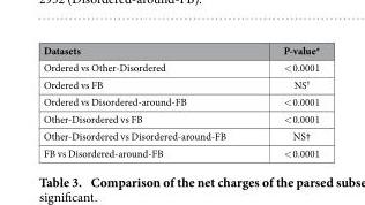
<table><thead><tr><td>Datasets</td><td>P-value*</td></tr></thead><tbody><tr><td>Ordered vs Other-Disordered</td><td>&lt; 0.0001</td></tr><tr><td>Ordered vs FB</td><td>NS†</td></tr><tr><td>Ordered vs Disordered-around-FB</td><td>&lt; 0.0001</td></tr><tr><td>Other-Disordered vs FB</td><td>&lt; 0.0001</td></tr><tr><td>Other-Disordered vs Disordered-around-FB</td><td>NS†</td></tr><tr><td>FB vs Disordered-around-FB</td><td>&lt; 0.0001</td></tr></tbody></table>